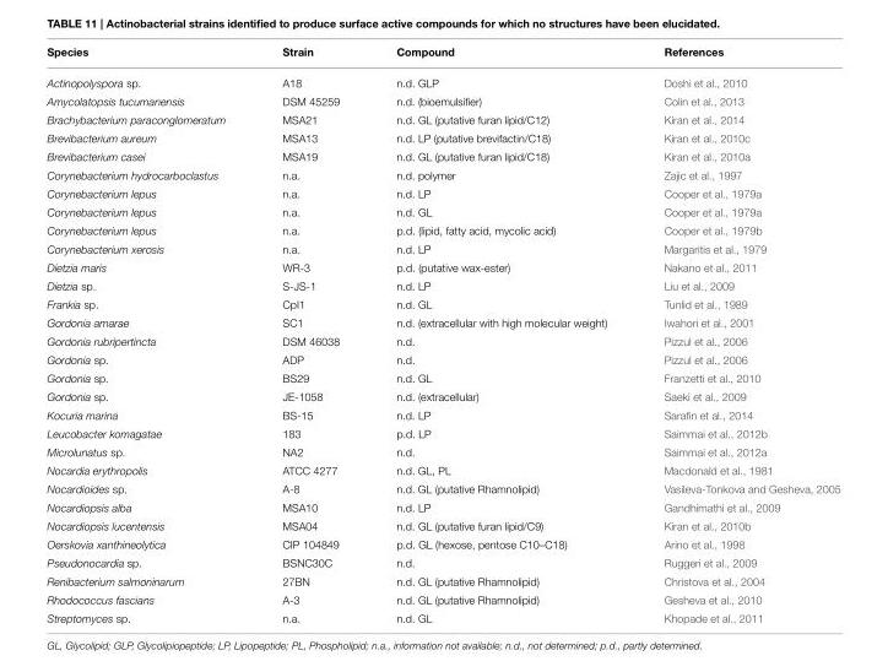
<table><thead><tr><td>Species</td><td>Strain</td><td>Compound</td><td>References</td></tr></thead><tbody><tr><td>Actinopolyspora sp.</td><td>A18</td><td>n.d. GLP</td><td>Doshi et al., 2010</td></tr><tr><td>Amycolatopsis tucumanensis</td><td>DSM 45259</td><td>n.d. (bioemulsifier)</td><td>Colin et al., 2013</td></tr><tr><td>Brachybacterium paraconglomeratum</td><td>MSA21</td><td>n.d. GL (putative furan lipid/C12)</td><td>Kiran et al., 2014</td></tr><tr><td>Brevibacterium aureum</td><td>MSA13</td><td>n.d. LP (putative brevifactin/C18)</td><td>Kiran et al., 2010c</td></tr><tr><td>Brevibacterium casei</td><td>MSA19</td><td>n.d. GL (putative furan lipid/C18)</td><td>Kiran et al., 2010a</td></tr><tr><td>Corynebacterium hydrocarboclastus</td><td>n.a.</td><td>n.d. polymer</td><td>Zajic et al., 1997</td></tr><tr><td>Corynebacterium lepus</td><td>n.a.</td><td>n.d. LP</td><td>Cooper et al., 1979a</td></tr><tr><td>Corynebacterium lepus</td><td>n.a.</td><td>n.d. GL</td><td>Cooper et al., 1979a</td></tr><tr><td>Corynebacterium lepus</td><td>n.a.</td><td>p.d. (lipid, fatty acid, mycolic acid)</td><td>Cooper et al., 1979b</td></tr><tr><td>Corynebacterium xerosis</td><td>n.a.</td><td>n.d. LP</td><td>Margaritis et al., 1979</td></tr><tr><td>Dietzia maris</td><td>WR-3</td><td>p.d. (putative wax-ester)</td><td>Nakano et al., 2011</td></tr><tr><td>Dietzia sp.</td><td>S-JS-1</td><td>n.d. LP</td><td>Liu et al., 2009</td></tr><tr><td>Frankia sp.</td><td>CpI1</td><td>n.d. GL</td><td>Tunlid et al., 1989</td></tr><tr><td>Gordonia amarae</td><td>SC1</td><td>n.d. (extracellular with high molecular weight)</td><td>Iwahori et al., 2001</td></tr><tr><td>Gordonia rubripertincta</td><td>DSM 46038</td><td>n.d.</td><td>Pizzul et al., 2006</td></tr><tr><td>Gordonia sp.</td><td>ADP</td><td>n.d.</td><td>Pizzul et al., 2006</td></tr><tr><td>Gordonia sp.</td><td>BS29</td><td>n.d. GL</td><td>Franzetti et al., 2010</td></tr><tr><td>Gordonia sp.</td><td>JE-1058</td><td>n.d. (extracellular)</td><td>Saeki et al., 2009</td></tr><tr><td>Kocuria marina</td><td>BS-15</td><td>n.d. LP</td><td>Sarafin et al., 2014</td></tr><tr><td>Leucobacter komagatae</td><td>183</td><td>p.d. LP</td><td>Saimmai et al., 2012b</td></tr><tr><td>Microlunatus sp.</td><td>NA2</td><td>n.d.</td><td>Saimmai et al., 2012a</td></tr><tr><td>Nocardia erythropolis</td><td>ATCC 4277</td><td>n.d. GL, PL</td><td>Macdonald et al., 1981</td></tr><tr><td>Nocardioides sp.</td><td>A-8</td><td>n.d. GL (putative Rhamnolipid)</td><td>Vasileva-Tonkova and Gesheva, 2005</td></tr><tr><td>Nocardiopsis alba</td><td>MSA10</td><td>n.d. LP</td><td>Gandhimathi et al., 2009</td></tr><tr><td>Nocardiopsis lucentensis</td><td>MSA04</td><td>n.d. GL (putative furan lipid/C9)</td><td>Kiran et al., 2010b</td></tr><tr><td>Oerskovia xanthineolytica</td><td>CIP 104849</td><td>p.d. GL (hexose, pentose C10–C18)</td><td>Arino et al., 1998</td></tr><tr><td>Pseudonocardia sp.</td><td>BSNC30C</td><td>n.d.</td><td>Ruggeri et al., 2009</td></tr><tr><td>Renibacterium salmoninarum</td><td>27BN</td><td>n.d. GL (putative Rhamnolipid)</td><td>Christova et al., 2004</td></tr><tr><td>Rhodococcus fascians</td><td>A-3</td><td>n.d. GL (putative Rhamnolipid)</td><td>Gesheva et al., 2010</td></tr><tr><td>Streptomyces sp.</td><td>n.a.</td><td>n.d. GL</td><td>Khopade et al., 2011</td></tr></tbody></table>